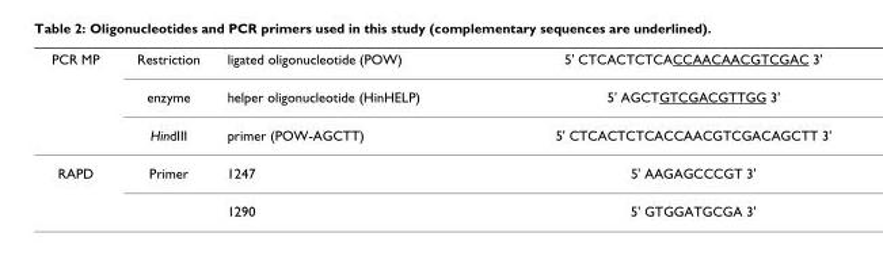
<table><thead><tr><td rowspan="3">PCR MP</td><td rowspan="3">Restriction enzyme HindIII</td><td rowspan="3">ligated oligonucleotide (POW) helper oligonucleotide (HinHELP) primer (POW-AGCTT)</td><td rowspan="3">5&#x27; CTCACTCTCACCAACAACGTCGAC 3&#x27; 5&#x27; AGCTGTCGACGTTGG 3&#x27; 5&#x27; CTCACTCTCACCAACGTCGACAGCTT 3&#x27;</td></tr><tr></tr><tr></tr></thead><tbody><tr><td rowspan="2">RAPD</td><td>Primer</td><td>1247</td><td>5&#x27; AAGAGCCCGT 3&#x27;</td></tr><tr><td></td><td>1290</td><td>5&#x27; GTGGATGCGA 3&#x27;</td></tr></tbody></table>